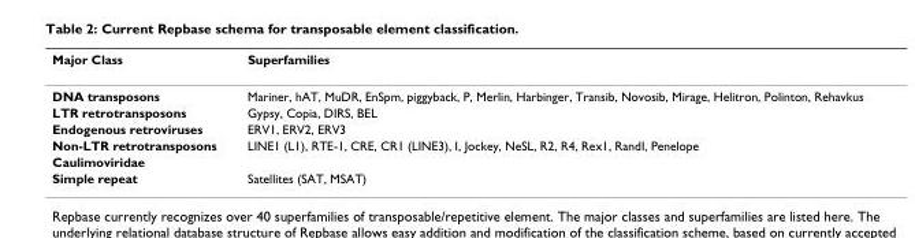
<table><thead><tr><td>Major Class</td><td>Superfamilies</td></tr></thead><tbody><tr><td>DNA transposons</td><td>Mariner, hAT, MuDR, EnSpm, piggyback, P, Merlin, Harbinger, Transib, Novosib, Mirage, Helitron, Polinton, Rehavkus</td></tr><tr><td>LTR retrotransposons</td><td>Gypsy, Copia, DIRS, BEL</td></tr><tr><td>Endogenous retroviruses</td><td>ERV1, ERV2, ERV3</td></tr><tr><td>Non-LTR retrotransposons</td><td>LINE1 (L1), RTE-1, CRE, CR1 (LINE3), I, Jockey, NeSL, R2, R4, Rex1, RandI, Penelope</td></tr><tr><td colspan="2">Caulimoviridae</td></tr><tr><td>Simple repeat</td><td>Satellites (SAT, MSAT)</td></tr></tbody></table>